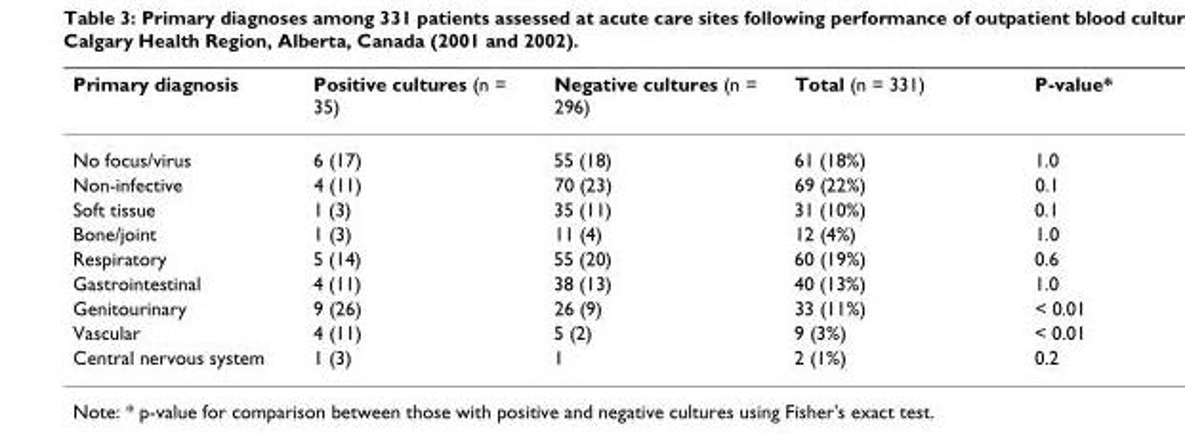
<table><thead><tr><td>Primary diagnosis</td><td>Positive cultures (n = 35)</td><td>Negative cultures (n = 296)</td><td>Total (n = 331)</td><td>P-value*</td></tr></thead><tbody><tr><td>No focus/virus</td><td>6 (17)</td><td>55 (18)</td><td>61 (18%)</td><td>1.0</td></tr><tr><td>Non-infective</td><td>4 (11)</td><td>70 (23)</td><td>69 (22%)</td><td>0.1</td></tr><tr><td>Soft tissue</td><td>1 (3)</td><td>35 (11)</td><td>31 (10%)</td><td>0.1</td></tr><tr><td>Bone/joint</td><td>1 (3)</td><td>11 (4)</td><td>12 (4%)</td><td>1.0</td></tr><tr><td>Respiratory</td><td>5 (14)</td><td>55 (20)</td><td>60 (19%)</td><td>0.6</td></tr><tr><td>Gastrointestinal</td><td>4 (11)</td><td>38 (13)</td><td>40 (13%)</td><td>1.0</td></tr><tr><td>Genitourinary</td><td>9 (26)</td><td>26 (9)</td><td>33 (11%)</td><td>&lt; 0.01</td></tr><tr><td>Vascular</td><td>4 (11)</td><td>5 (2)</td><td>9 (3%)</td><td>&lt; 0.01</td></tr><tr><td>Central nervous system</td><td>1 (3)</td><td>1</td><td>2 (1%)</td><td>0.2</td></tr></tbody></table>